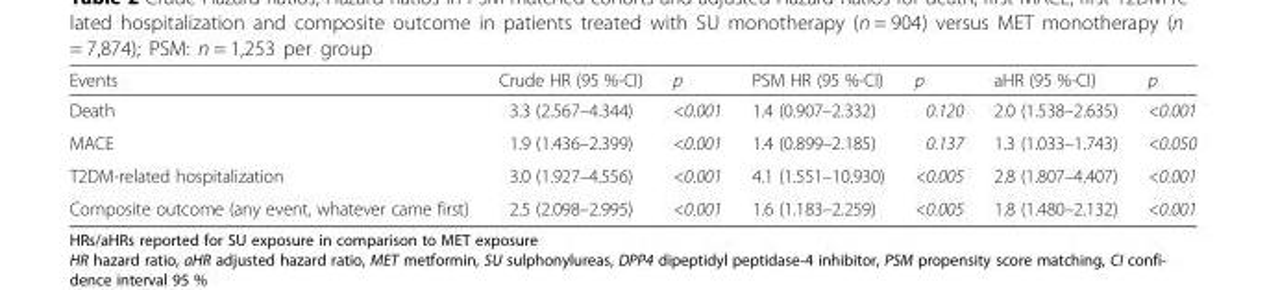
<table><thead><tr><td>Events</td><td>Crude HR (95 %-CI)</td><td>p</td><td>PSM HR (95 %-CI)</td><td>p</td><td>aHR (95 %-CI)</td><td>p</td></tr></thead><tbody><tr><td>Death</td><td>3.3 (2.567–4.344)</td><td>&lt;0.001</td><td>1.4 (0.907–2.332)</td><td>0.120</td><td>2.0 (1.538–2.635)</td><td>&lt;0.001</td></tr><tr><td>MACE</td><td>1.9 (1.436–2.399)</td><td>&lt;0.001</td><td>1.4 (0.899–2.185)</td><td>0.137</td><td>1.3 (1.033–1.743)</td><td>&lt;0.050</td></tr><tr><td>T2DM-related hospitalization</td><td>3.0 (1.927–4.556)</td><td>&lt;0.001</td><td>4.1 (1.551–10.930)</td><td>&lt;0.005</td><td>2.8 (1.807–4.407)</td><td>&lt;0.001</td></tr><tr><td>Composite outcome (any event, whatever came first)</td><td>2.5 (2.098–2.995)</td><td>&lt;0.001</td><td>1.6 (1.183–2.259)</td><td>&lt;0.005</td><td>1.8 (1.480–2.132)</td><td>&lt;0.001</td></tr></tbody></table>